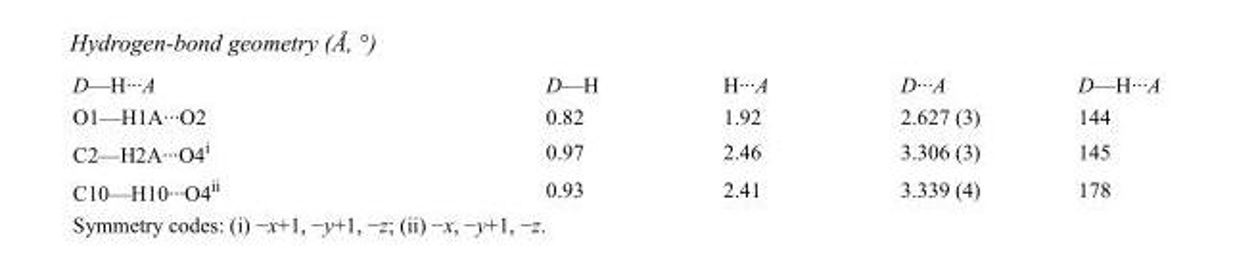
<table><tbody><tr><td>D—H···A</td><td>D—H</td><td>H···A</td><td>D···A</td><td>D—H···A</td></tr><tr><td>O1—H1A···O2</td><td>0.82</td><td>1.92</td><td>2.627 (3)</td><td>144</td></tr><tr><td>C2—H2A···O4<sup>i</sup></td><td>0.97</td><td>2.46</td><td>3.306 (3)</td><td>145</td></tr><tr><td>C10—H10···O4<sup>ii</sup></td><td>0.93</td><td>2.41</td><td>3.339 (4)</td><td>178</td></tr></tbody></table>